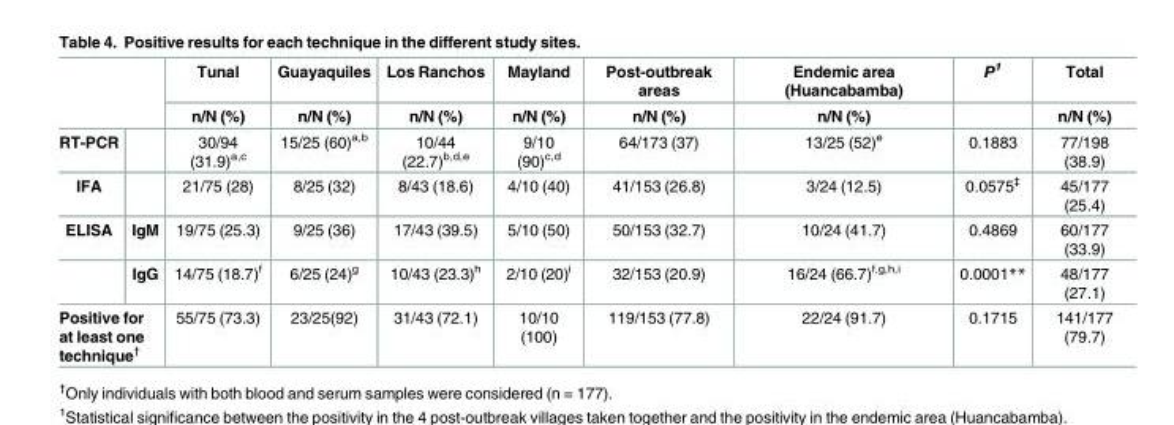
<table><thead><tr><td rowspan="2"></td><td rowspan="2"></td><td rowspan="2">Tunal n/N (%)</td><td rowspan="2">Guayaquiles n/N (%)</td><td rowspan="2">Los Ranchos n/N (%)</td><td rowspan="2">Mayland n/N (%)</td><td rowspan="2">Post-outbreak areas n/N (%)</td><td rowspan="2">Endemic area (Huancabamba) n/N (%)</td><td rowspan="2">P<sup>1</sup></td><td rowspan="2">Total n/N (%)</td></tr><tr></tr></thead><tbody><tr><td>RT-PCR</td><td></td><td>30/94 (31.9)<sup>a,c</sup></td><td>15/25 (60)<sup>a,b</sup></td><td>10/44 (22.7)<sup>b,d,e</sup></td><td>9/10 (90)<sup>c,d</sup></td><td>64/173 (37)</td><td>13/25 (52)<sup>e</sup></td><td>0.1883</td><td>77/198 (38.9)</td></tr><tr><td>IFA</td><td></td><td>21/75 (28)</td><td>8/25 (32)</td><td>8/43 (18.6)</td><td>4/10 (40)</td><td>41/153 (26.8)</td><td>3/24 (12.5)</td><td>0.0575<sup>‡</sup></td><td>45/177 (25.4)</td></tr><tr><td rowspan="2">ELISA</td><td>IgM</td><td>19/75 (25.3)</td><td>9/25 (36)</td><td>17/43 (39.5)</td><td>5/10 (50)</td><td>50/153 (32.7)</td><td>10/24 (41.7)</td><td>0.4869</td><td>60/177 (33.9)</td></tr><tr><td>IgG</td><td>14/75 (18.7)<sup>f</sup></td><td>6/25 (24)<sup>g</sup></td><td>10/43 (23.3)<sup>h</sup></td><td>2/10 (20)<sup>i</sup></td><td>32/153 (20.9)</td><td>16/24 (66.7)<sup>f,g,h,i</sup></td><td>0.0001**</td><td>48/177 (27.1)</td></tr><tr><td colspan="2">Positive for at least one technique<sup>†</sup></td><td>55/75 (73.3)</td><td>23/25(92)</td><td>31/43 (72.1)</td><td>10/10 (100)</td><td>119/153 (77.8)</td><td>22/24 (91.7)</td><td>0.1715</td><td>141/177 (79.7)</td></tr></tbody></table>